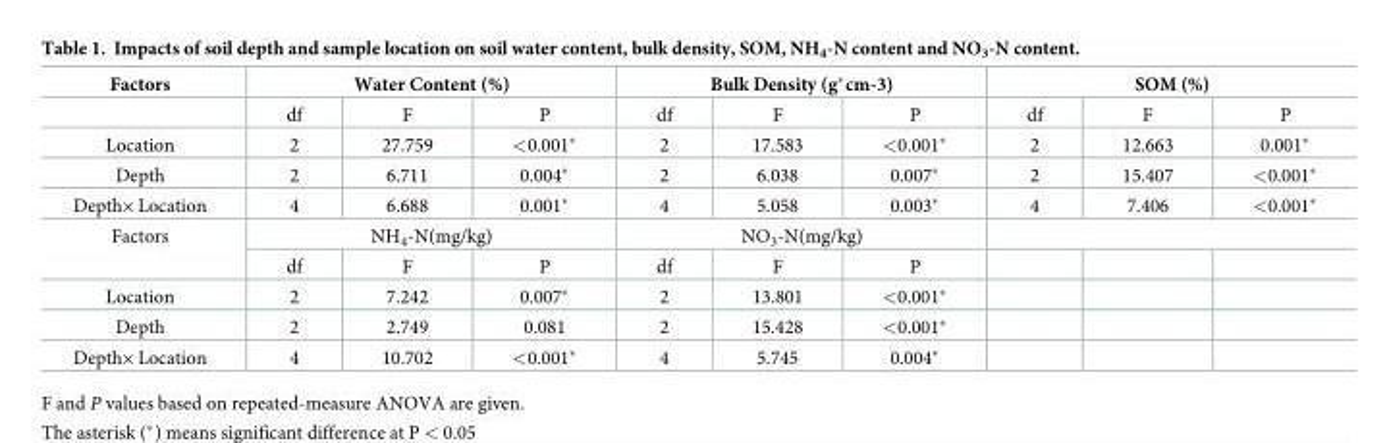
<table><tbody><tr><td rowspan="2">Factors</td><td colspan="3">Water Content (%)</td><td colspan="3">Bulk Density (g*cm-3)</td><td colspan="3">SOM (%)</td></tr><tr><td>df</td><td>F</td><td>P</td><td>df</td><td>F</td><td>P</td><td>df</td><td>F</td><td>P</td></tr><tr><td>Location</td><td>2</td><td>27.759</td><td>&lt;0.001*</td><td>2</td><td>17.583</td><td>&lt;0.001*</td><td>2</td><td>12.663</td><td>0.001*</td></tr><tr><td>Depth</td><td>2</td><td>6.711</td><td>0.004*</td><td>2</td><td>6.038</td><td>0.007*</td><td>2</td><td>15.407</td><td>&lt;0.001*</td></tr><tr><td>Depth× Location</td><td>4</td><td>6.688</td><td>0.001*</td><td>4</td><td>5.058</td><td>0.003*</td><td>4</td><td>7.406</td><td>&lt;0.001*</td></tr><tr><td rowspan="2">Factors</td><td colspan="3">NH<sub>4</sub>-N(mg/kg)</td><td colspan="3">NO<sub>3</sub>-N(mg/kg)</td><td colspan="3"></td></tr><tr><td>df</td><td>F</td><td>P</td><td>df</td><td>F</td><td>P</td><td></td><td></td><td></td></tr><tr><td>Location</td><td>2</td><td>7.242</td><td>0.007*</td><td>2</td><td>13.801</td><td>&lt;0.001*</td><td></td><td></td><td></td></tr><tr><td>Depth</td><td>2</td><td>2.749</td><td>0.081</td><td>2</td><td>15.428</td><td>&lt;0.001*</td><td></td><td></td><td></td></tr><tr><td>Depth× Location</td><td>4</td><td>10.702</td><td>&lt;0.001*</td><td>4</td><td>5.745</td><td>0.004*</td><td></td><td></td><td></td></tr></tbody></table>